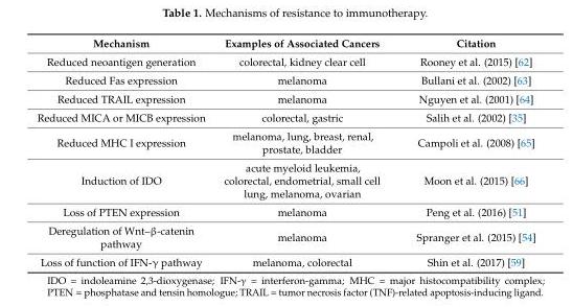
<table><thead><tr><td>Mechanism</td><td>Examples of Associated Cancers</td><td>Citation</td></tr></thead><tbody><tr><td>Reduced neoantigen generation</td><td>colorectal, kidney clear cell</td><td>Rooney et al. (2015) [62]</td></tr><tr><td>Reduced Fas expression</td><td>melanoma</td><td>Bullani et al. (2002) [63]</td></tr><tr><td>Reduced TRAIL expression</td><td>melanoma</td><td>Nguyen et al. (2001) [64]</td></tr><tr><td>Reduced MICA or MICB expression</td><td>colorectal, gastric</td><td>Salih et al. (2002) [35]</td></tr><tr><td>Reduced MHC I expression</td><td>melanoma, lung, breast, renal, prostate, bladder</td><td>Campoli et al. (2008) [65]</td></tr><tr><td>Induction of IDO</td><td>acute myeloid leukemia, colorectal, endometrial, small cell lung, melanoma, ovarian</td><td>Moon et al. (2015) [66]</td></tr><tr><td>Loss of PTEN expression</td><td>melanoma</td><td>Peng et al. (2016) [51]</td></tr><tr><td>Deregulation of Wnt–β-catenin pathway</td><td>melanoma</td><td>Spranger et al. (2015) [54]</td></tr><tr><td>Loss of function of IFN-γ pathway</td><td>melanoma, colorectal</td><td>Shin et al. (2017) [59]</td></tr></tbody></table>